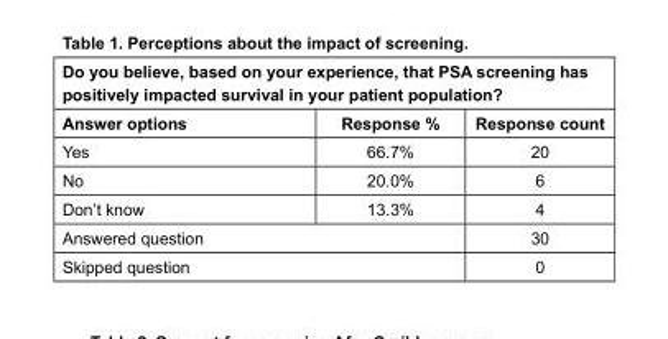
<table><thead><tr><td colspan="3">Do you believe, based on your experience, that PSA screening has positively impacted survival in your patient population?</td></tr><tr><td>Answer options</td><td>Response %</td><td>Response count</td></tr></thead><tbody><tr><td>Yes</td><td>66.7%</td><td>20</td></tr><tr><td>No</td><td>20.0%</td><td>6</td></tr><tr><td>Don’t know</td><td>13.3%</td><td>4</td></tr><tr><td colspan="2">Answered question</td><td>30</td></tr><tr><td colspan="2">Skipped question</td><td>0</td></tr></tbody></table>